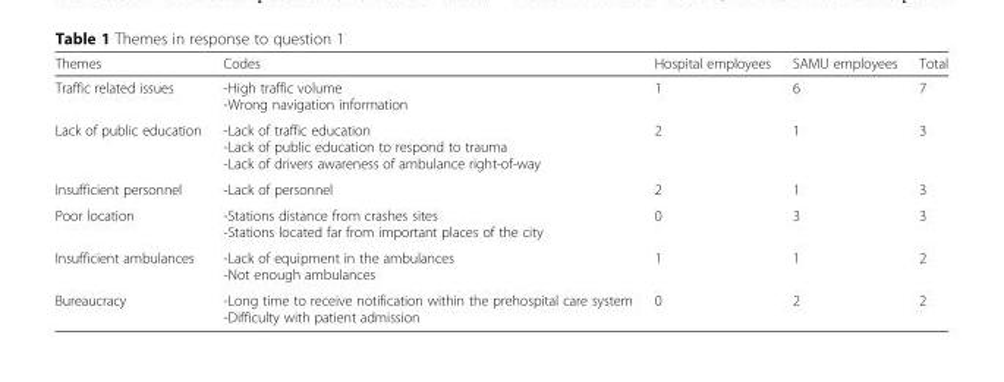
<table><thead><tr><td>Themes</td><td>Codes</td><td>Hospital employees</td><td>SAMU employees</td><td>Total</td></tr></thead><tbody><tr><td>Traffic related issues</td><td>-High traffic volume -Wrong navigation information</td><td>1</td><td>6</td><td>7</td></tr><tr><td>Lack of public education</td><td>-Lack of traffic education -Lack of public education to respond to trauma -Lack of drivers awareness of ambulance right-of-way</td><td>2</td><td>1</td><td>3</td></tr><tr><td>Insufficient personnel</td><td>-Lack of personnel</td><td>2</td><td>1</td><td>3</td></tr><tr><td>Poor location</td><td>-Stations distance from crashes sites -Stations located far from important places of the city</td><td>0</td><td>3</td><td>3</td></tr><tr><td>Insufficient ambulances</td><td>-Lack of equipment in the ambulances -Not enough ambulances</td><td>1</td><td>1</td><td>2</td></tr><tr><td>Bureaucracy</td><td>-Long time to receive notification within the prehospital care system -Difficulty with patient admission</td><td>0</td><td>2</td><td>2</td></tr></tbody></table>